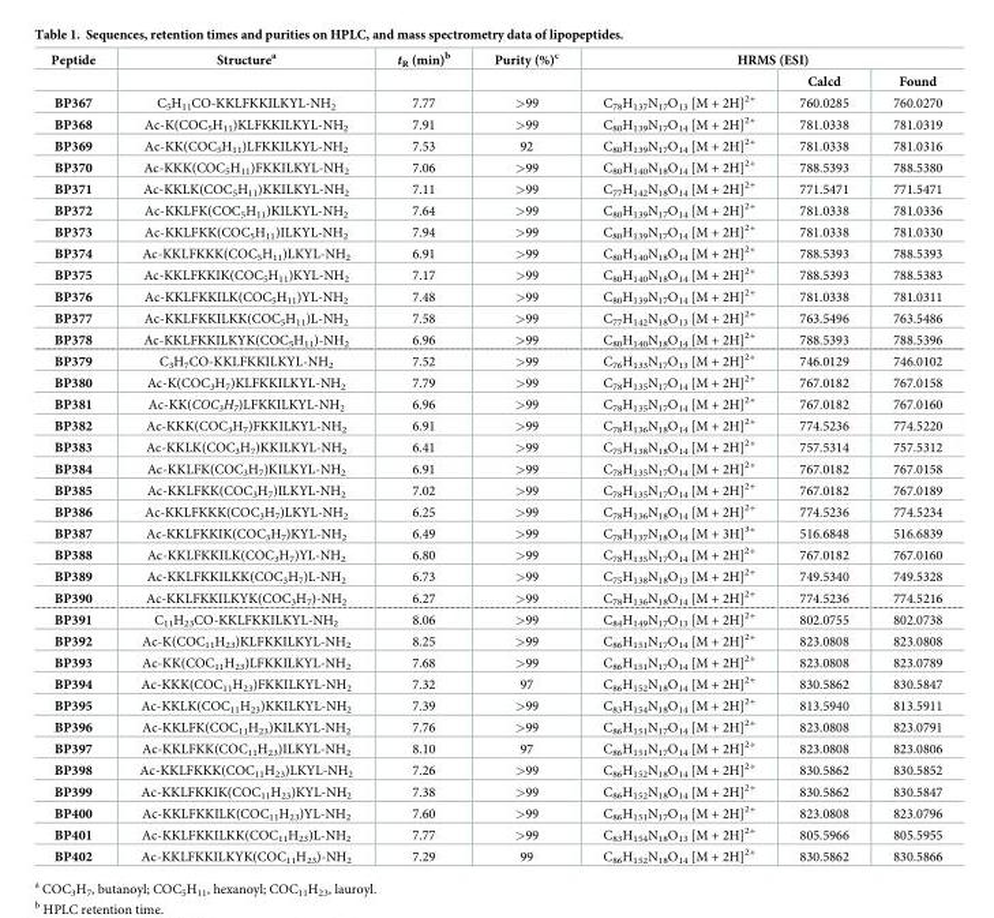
<table><thead><tr><td rowspan="2">Peptide</td><td rowspan="2">Structure<sup>a</sup></td><td rowspan="2">t<sub>R</sub> (min)<sup>b</sup></td><td rowspan="2">Purity (%)<sup>c</sup></td><td colspan="3">HRMS (ESI)</td></tr><tr><td></td><td>Calcd</td><td>Found</td></tr></thead><tbody><tr><td>BP367</td><td>C<sub>5</sub>H<sub>11</sub>CO-KKLFKKILKYL-NH<sub>2</sub></td><td>7.77</td><td>&gt;99</td><td>C<sub>78</sub>H<sub>137</sub>N<sub>17</sub>O<sub>13</sub> [M + 2H]<sup>2+</sup></td><td>760.0285</td><td>760.0270</td></tr><tr><td>BP368</td><td>Ac-K(COC<sub>5</sub>H<sub>11</sub>)KLFKKILKYL-NH<sub>2</sub></td><td>7.91</td><td>&gt;99</td><td>C<sub>80</sub>H<sub>139</sub>N<sub>17</sub>O<sub>14</sub> [M + 2H]<sup>2+</sup></td><td>781.0338</td><td>781.0319</td></tr><tr><td>BP369</td><td>Ac-KK(COC<sub>5</sub>H<sub>11</sub>)LFKKILKYL-NH<sub>2</sub></td><td>7.53</td><td>92</td><td>C<sub>80</sub>H<sub>139</sub>N<sub>17</sub>O<sub>14</sub> [M + 2H]<sup>2+</sup></td><td>781.0338</td><td>781.0316</td></tr><tr><td>BP370</td><td>Ac-KKK(COC<sub>5</sub>H<sub>11</sub>)FKKILKYL-NH<sub>2</sub></td><td>7.06</td><td>&gt;99</td><td>C<sub>80</sub>H<sub>140</sub>N<sub>18</sub>O<sub>14</sub> [M + 2H]<sup>2+</sup></td><td>788.5393</td><td>788.5380</td></tr><tr><td>BP371</td><td>Ac-KKLK(COC<sub>5</sub>H<sub>11</sub>)KKILKYL-NH<sub>2</sub></td><td>7.11</td><td>&gt;99</td><td>C<sub>77</sub>H<sub>142</sub>N<sub>18</sub>O<sub>14</sub> [M + 2H]<sup>2+</sup></td><td>771.5471</td><td>771.5471</td></tr><tr><td>BP372</td><td>Ac-KKLFK(COC<sub>5</sub>H<sub>11</sub>)KILKYL-NH<sub>2</sub></td><td>7.64</td><td>&gt;99</td><td>C<sub>80</sub>H<sub>139</sub>N<sub>17</sub>O<sub>14</sub> [M + 2H]<sup>2+</sup></td><td>781.0338</td><td>781.0336</td></tr><tr><td>BP373</td><td>Ac-KKLFKK(COC<sub>5</sub>H<sub>11</sub>)ILKYL-NH<sub>2</sub></td><td>7.94</td><td>&gt;99</td><td>C<sub>80</sub>H<sub>139</sub>N<sub>17</sub>O<sub>14</sub> [M + 2H]<sup>2+</sup></td><td>781.0338</td><td>781.0330</td></tr><tr><td>BP374</td><td>Ac-KKLFKKK(COC<sub>5</sub>H<sub>11</sub>)LKYL-NH<sub>2</sub></td><td>6.91</td><td>&gt;99</td><td>C<sub>80</sub>H<sub>140</sub>N<sub>18</sub>O<sub>14</sub> [M + 2H]<sup>2+</sup></td><td>788.5393</td><td>788.5393</td></tr><tr><td>BP375</td><td>Ac-KKLFKKIK(COC<sub>5</sub>H<sub>11</sub>)KYL-NH<sub>2</sub></td><td>7.17</td><td>&gt;99</td><td>C<sub>80</sub>H<sub>140</sub>N<sub>18</sub>O<sub>14</sub> [M + 2H]<sup>2+</sup></td><td>788.5393</td><td>788.5383</td></tr><tr><td>BP376</td><td>Ac-KKLFKKILK(COC<sub>5</sub>H<sub>11</sub>)YL-NH<sub>2</sub></td><td>7.48</td><td>&gt;99</td><td>C<sub>80</sub>H<sub>139</sub>N<sub>17</sub>O<sub>14</sub> [M + 2H]<sup>2+</sup></td><td>781.0338</td><td>781.0311</td></tr><tr><td>BP377</td><td>Ac-KKLFKKILKK(COC<sub>5</sub>H<sub>11</sub>)L-NH<sub>2</sub></td><td>7.58</td><td>&gt;99</td><td>C<sub>77</sub>H<sub>142</sub>N<sub>18</sub>O<sub>13</sub> [M + 2H]<sup>2+</sup></td><td>763.5496</td><td>763.5486</td></tr><tr><td>BP378</td><td>Ac-KKLFKKILKYK(COC<sub>5</sub>H<sub>11</sub>)-NH<sub>2</sub></td><td>6.96</td><td>&gt;99</td><td>C<sub>80</sub>H<sub>140</sub>N<sub>18</sub>O<sub>14</sub> [M + 2H]<sup>2+</sup></td><td>788.5393</td><td>788.5396</td></tr><tr><td>BP379</td><td>C<sub>3</sub>H<sub>7</sub>CO-KKLFKKILKYL-NH<sub>2</sub></td><td>7.52</td><td>&gt;99</td><td>C<sub>76</sub>H<sub>133</sub>N<sub>17</sub>O<sub>13</sub> [M + 2H]<sup>2+</sup></td><td>746.0129</td><td>746.0102</td></tr><tr><td>BP380</td><td>Ac-K(COC<sub>3</sub>H<sub>7</sub>)KLFKKILKYL-NH<sub>2</sub></td><td>7.79</td><td>&gt;99</td><td>C<sub>78</sub>H<sub>135</sub>N<sub>17</sub>O<sub>14</sub> [M + 2H]<sup>2+</sup></td><td>767.0182</td><td>767.0158</td></tr><tr><td>BP381</td><td>Ac-KK(COC<sub>3</sub>H<sub>7</sub>)LFKKILKYL-NH<sub>2</sub></td><td>6.96</td><td>&gt;99</td><td>C<sub>78</sub>H<sub>135</sub>N<sub>17</sub>O<sub>14</sub> [M + 2H]<sup>2+</sup></td><td>767.0182</td><td>767.0160</td></tr><tr><td>BP382</td><td>Ac-KKK(COC<sub>3</sub>H<sub>7</sub>)FKKILKYL-NH<sub>2</sub></td><td>6.91</td><td>&gt;99</td><td>C<sub>78</sub>H<sub>136</sub>N<sub>18</sub>O<sub>14</sub> [M + 2H]<sup>2+</sup></td><td>774.5236</td><td>774.5220</td></tr><tr><td>BP383</td><td>Ac-KKLK(COC<sub>3</sub>H<sub>7</sub>)KKILKYL-NH<sub>2</sub></td><td>6.41</td><td>&gt;99</td><td>C<sub>75</sub>H<sub>138</sub>N<sub>18</sub>O<sub>14</sub> [M + 2H]<sup>2+</sup></td><td>757.5314</td><td>757.5312</td></tr><tr><td>BP384</td><td>Ac-KKLFK(COC<sub>3</sub>H<sub>7</sub>)KILKYL-NH<sub>2</sub></td><td>6.91</td><td>&gt;99</td><td>C<sub>78</sub>H<sub>135</sub>N<sub>17</sub>O<sub>14</sub> [M + 2H]<sup>2+</sup></td><td>767.0182</td><td>767.0158</td></tr><tr><td>BP385</td><td>Ac-KKLFKK(COC<sub>3</sub>H<sub>7</sub>)ILKYL-NH<sub>2</sub></td><td>7.02</td><td>&gt;99</td><td>C<sub>78</sub>H<sub>135</sub>N<sub>17</sub>O<sub>14</sub> [M + 2H]<sup>2+</sup></td><td>767.0182</td><td>767.0189</td></tr><tr><td>BP386</td><td>Ac-KKLFKKK(COC<sub>3</sub>H<sub>7</sub>)LKYL-NH<sub>2</sub></td><td>6.25</td><td>&gt;99</td><td>C<sub>78</sub>H<sub>136</sub>N<sub>18</sub>O<sub>14</sub> [M + 2H]<sup>2+</sup></td><td>774.5236</td><td>774.5234</td></tr><tr><td>BP387</td><td>Ac-KKLFKKIK(COC<sub>3</sub>H<sub>7</sub>)KYL-NH<sub>2</sub></td><td>6.49</td><td>&gt;99</td><td>C<sub>78</sub>H<sub>137</sub>N<sub>18</sub>O<sub>14</sub> [M + 3H]<sup>3+</sup></td><td>516.6848</td><td>516.6839</td></tr><tr><td>BP388</td><td>Ac-KKLFKKILK(COC<sub>3</sub>H<sub>7</sub>)YL-NH<sub>2</sub></td><td>6.80</td><td>&gt;99</td><td>C<sub>78</sub>H<sub>135</sub>N<sub>17</sub>O<sub>14</sub> [M + 2H]<sup>2+</sup></td><td>767.0182</td><td>767.0160</td></tr><tr><td>BP389</td><td>Ac-KKLFKKILKK(COC<sub>3</sub>H<sub>7</sub>)L-NH<sub>2</sub></td><td>6.73</td><td>&gt;99</td><td>C<sub>75</sub>H<sub>138</sub>N<sub>18</sub>O<sub>13</sub> [M + 2H]<sup>2+</sup></td><td>749.5340</td><td>749.5328</td></tr><tr><td>BP390</td><td>Ac-KKLFKKILKYK(COC<sub>3</sub>H<sub>7</sub>)-NH<sub>2</sub></td><td>6.27</td><td>&gt;99</td><td>C<sub>78</sub>H<sub>136</sub>N<sub>18</sub>O<sub>14</sub> [M + 2H]<sup>2+</sup></td><td>774.5236</td><td>774.5216</td></tr><tr><td>BP391</td><td>C<sub>11</sub>H<sub>23</sub>CO-KKLFKKILKYL-NH<sub>2</sub></td><td>8.06</td><td>&gt;99</td><td>C<sub>84</sub>H<sub>149</sub>N<sub>17</sub>O<sub>13</sub> [M + 2H]<sup>2+</sup></td><td>802.0755</td><td>802.0738</td></tr><tr><td>BP392</td><td>Ac-K(COC<sub>11</sub>H<sub>23</sub>)KLFKKILKYL-NH<sub>2</sub></td><td>8.25</td><td>&gt;99</td><td>C<sub>86</sub>H<sub>151</sub>N<sub>17</sub>O<sub>14</sub> [M + 2H]<sup>2+</sup></td><td>823.0808</td><td>823.0808</td></tr><tr><td>BP393</td><td>Ac-KK(COC<sub>11</sub>H<sub>23</sub>)LFKKILKYL-NH<sub>2</sub></td><td>7.68</td><td>&gt;99</td><td>C<sub>86</sub>H<sub>151</sub>N<sub>17</sub>O<sub>14</sub> [M + 2H]<sup>2+</sup></td><td>823.0808</td><td>823.0789</td></tr><tr><td>BP394</td><td>Ac-KKK(COC<sub>11</sub>H<sub>23</sub>)FKKILKYL-NH<sub>2</sub></td><td>7.32</td><td>97</td><td>C<sub>86</sub>H<sub>152</sub>N<sub>18</sub>O<sub>14</sub> [M + 2H]<sup>2+</sup></td><td>830.5862</td><td>830.5847</td></tr><tr><td>BP395</td><td>Ac-KKLK(COC<sub>11</sub>H<sub>23</sub>)KKILKYL-NH<sub>2</sub></td><td>7.39</td><td>&gt;99</td><td>C<sub>83</sub>H<sub>154</sub>N<sub>18</sub>O<sub>14</sub> [M + 2H]<sup>2+</sup></td><td>813.5940</td><td>813.5911</td></tr><tr><td>BP396</td><td>Ac-KKLFK(COC<sub>11</sub>H<sub>23</sub>)KILKYL-NH<sub>2</sub></td><td>7.76</td><td>&gt;99</td><td>C<sub>86</sub>H<sub>151</sub>N<sub>17</sub>O<sub>14</sub> [M + 2H]<sup>2+</sup></td><td>823.0808</td><td>823.0791</td></tr><tr><td>BP397</td><td>Ac-KKLFKK(COC<sub>11</sub>H<sub>23</sub>)ILKYL-NH<sub>2</sub></td><td>8.10</td><td>97</td><td>C<sub>86</sub>H<sub>151</sub>N<sub>17</sub>O<sub>14</sub> [M + 2H]<sup>2+</sup></td><td>823.0808</td><td>823.0806</td></tr><tr><td>BP398</td><td>Ac-KKLFKKK(COC<sub>11</sub>H<sub>23</sub>)LKYL-NH<sub>2</sub></td><td>7.26</td><td>&gt;99</td><td>C<sub>86</sub>H<sub>152</sub>N<sub>18</sub>O<sub>14</sub> [M + 2H]<sup>2+</sup></td><td>830.5862</td><td>830.5852</td></tr><tr><td>BP399</td><td>Ac-KKLFKKIK(COC<sub>11</sub>H<sub>23</sub>)KYL-NH<sub>2</sub></td><td>7.38</td><td>&gt;99</td><td>C<sub>86</sub>H<sub>152</sub>N<sub>18</sub>O<sub>14</sub> [M + 2H]<sup>2+</sup></td><td>830.5862</td><td>830.5847</td></tr><tr><td>BP400</td><td>Ac-KKLFKKILK(COC<sub>11</sub>H<sub>23</sub>)YL-NH<sub>2</sub></td><td>7.60</td><td>&gt;99</td><td>C<sub>86</sub>H<sub>151</sub>N<sub>17</sub>O<sub>14</sub> [M + 2H]<sup>2+</sup></td><td>823.0808</td><td>823.0796</td></tr><tr><td>BP401</td><td>Ac-KKLFKKILKK(COC<sub>11</sub>H<sub>23</sub>)L-NH<sub>2</sub></td><td>7.77</td><td>&gt;99</td><td>C<sub>83</sub>H<sub>154</sub>N<sub>18</sub>O<sub>13</sub> [M + 2H]<sup>2+</sup></td><td>805.5966</td><td>805.5955</td></tr><tr><td>BP402</td><td>Ac-KKLFKKILKYK(COC<sub>11</sub>H<sub>23</sub>)-NH<sub>2</sub></td><td>7.29</td><td>99</td><td>C<sub>86</sub>H<sub>152</sub>N<sub>18</sub>O<sub>14</sub> [M + 2H]<sup>2+</sup></td><td>830.5862</td><td>830.5866</td></tr></tbody></table>